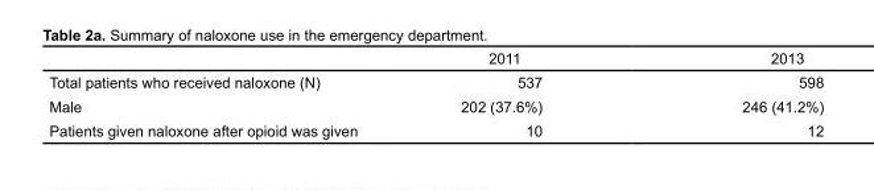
<table><thead><tr><td></td><td>2011</td><td>2013</td></tr></thead><tbody><tr><td>Total patients who received naloxone (N)</td><td>537</td><td>598</td></tr><tr><td>Male</td><td>202 (37.6%)</td><td>246 (41.2%)</td></tr><tr><td>Patients given naloxone after opioid was given</td><td>10</td><td>12</td></tr></tbody></table>